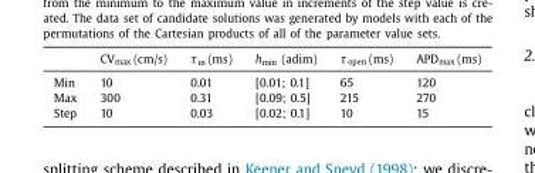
<table><thead><tr><td></td><td>CV <sub>max</sub> (cm/s)</td><td>τ <sub>in</sub> (ms)</td><td>h <sub>min</sub> (adim)</td><td>τ <sub>open</sub> (ms)</td><td>APD <sub>max</sub> (ms)</td></tr></thead><tbody><tr><td>Min</td><td>10</td><td>0.01</td><td>[0.01; 0.1]</td><td>65</td><td>120</td></tr><tr><td>Max</td><td>300</td><td>0.31</td><td>[0.09; 0.5]</td><td>215</td><td>270</td></tr><tr><td>Step</td><td>10</td><td>0.03</td><td>[0.02; 0.1]</td><td>10</td><td>15</td></tr></tbody></table>